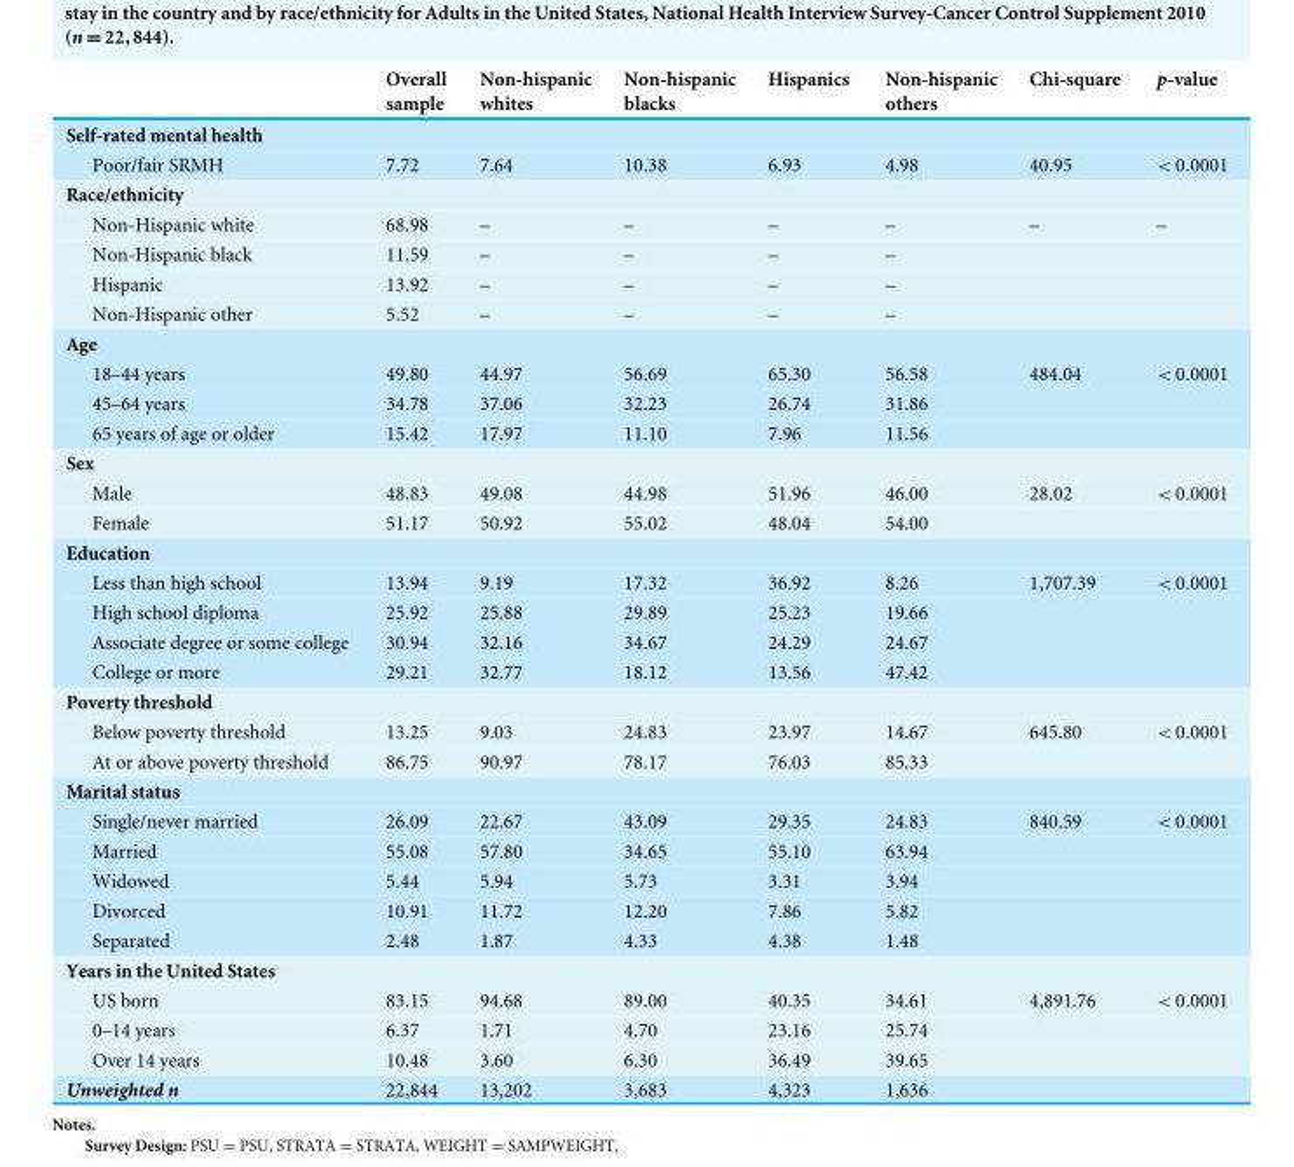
<table><thead><tr><td></td><td>Overall sample</td><td>Non-hispanic whites</td><td>Non-hispanic blacks</td><td>Hispanics</td><td>Non-hispanic others</td><td>Chi-square</td><td>p-value</td></tr></thead><tbody><tr><td colspan="8">Self-rated mental health</td></tr><tr><td>Poor/fair SRMH</td><td>7.72</td><td>7.64</td><td>10.38</td><td>6.93</td><td>4.98</td><td>40.95</td><td>&lt; 0.0001</td></tr><tr><td colspan="8">Race/ethnicity</td></tr><tr><td>Non-Hispanic white</td><td>68.98</td><td>–</td><td>–</td><td>–</td><td>–</td><td>–</td><td>–</td></tr><tr><td>Non-Hispanic black</td><td>11.59</td><td>–</td><td>–</td><td>–</td><td>–</td><td></td><td></td></tr><tr><td>Hispanic</td><td>13.92</td><td>–</td><td>–</td><td>–</td><td>–</td><td></td><td></td></tr><tr><td>Non-Hispanic other</td><td>5.52</td><td>–</td><td>–</td><td>–</td><td>–</td><td></td><td></td></tr><tr><td colspan="8">Age</td></tr><tr><td>18–44 years</td><td>49.80</td><td>44.97</td><td>56.69</td><td>65.30</td><td>56.58</td><td>484.04</td><td>&lt; 0.0001</td></tr><tr><td>45–64 years</td><td>34.78</td><td>37.06</td><td>32.23</td><td>26.74</td><td>31.86</td><td></td><td></td></tr><tr><td>65 years of age or older</td><td>15.42</td><td>17.97</td><td>11.10</td><td>7.96</td><td>11.56</td><td></td><td></td></tr><tr><td colspan="8">Sex</td></tr><tr><td>Male</td><td>48.83</td><td>49.08</td><td>44.98</td><td>51.96</td><td>46.00</td><td>28.02</td><td>&lt; 0.0001</td></tr><tr><td>Female</td><td>51.17</td><td>50.92</td><td>55.02</td><td>48.04</td><td>54.00</td><td></td><td></td></tr><tr><td colspan="8">Education</td></tr><tr><td>Less than high school</td><td>13.94</td><td>9.19</td><td>17.32</td><td>36.92</td><td>8.26</td><td>1,707.39</td><td>&lt; 0.0001</td></tr><tr><td>High school diploma</td><td>25.92</td><td>25.88</td><td>29.89</td><td>25.23</td><td>19.66</td><td></td><td></td></tr><tr><td>Associate degree or some college</td><td>30.94</td><td>32.16</td><td>34.67</td><td>24.29</td><td>24.67</td><td></td><td></td></tr><tr><td>College or more</td><td>29.21</td><td>32.77</td><td>18.12</td><td>13.56</td><td>47.42</td><td></td><td></td></tr><tr><td colspan="8">Poverty threshold</td></tr><tr><td>Below poverty threshold</td><td>13.25</td><td>9.03</td><td>24.83</td><td>23.97</td><td>14.67</td><td>645.80</td><td>&lt; 0.0001</td></tr><tr><td>At or above poverty threshold</td><td>86.75</td><td>90.97</td><td>78.17</td><td>76.03</td><td>85.33</td><td></td><td></td></tr><tr><td colspan="8">Marital status</td></tr><tr><td>Single/never married</td><td>26.09</td><td>22.67</td><td>43.09</td><td>29.35</td><td>24.83</td><td>840.59</td><td>&lt; 0.0001</td></tr><tr><td>Married</td><td>55.08</td><td>57.80</td><td>34.65</td><td>55.10</td><td>63.94</td><td></td><td></td></tr><tr><td>Widowed</td><td>5.44</td><td>5.94</td><td>5.73</td><td>3.31</td><td>3.94</td><td></td><td></td></tr><tr><td>Divorced</td><td>10.91</td><td>11.72</td><td>12.20</td><td>7.86</td><td>5.82</td><td></td><td></td></tr><tr><td>Separated</td><td>2.48</td><td>1.87</td><td>4.33</td><td>4.38</td><td>1.48</td><td></td><td></td></tr><tr><td colspan="8">Years in the United States</td></tr><tr><td>US born</td><td>83.15</td><td>94.68</td><td>89.00</td><td>40.35</td><td>34.61</td><td>4,891.76</td><td>&lt; 0.0001</td></tr><tr><td>0–14 years</td><td>6.37</td><td>1.71</td><td>4.70</td><td>23.16</td><td>25.74</td><td></td><td></td></tr><tr><td>Over 14 years</td><td>10.48</td><td>3.60</td><td>6.30</td><td>36.49</td><td>39.65</td><td></td><td></td></tr><tr><td>Unweighted n</td><td>22,844</td><td>13,202</td><td>3,683</td><td>4,323</td><td>1,636</td><td></td><td></td></tr></tbody></table>